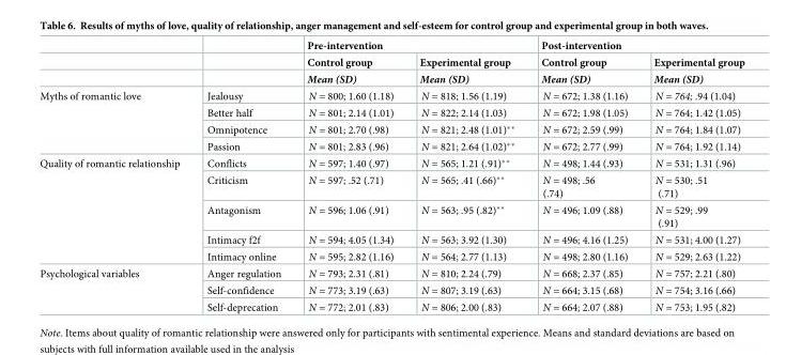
<table><thead><tr><td rowspan="3"></td><td rowspan="3"></td><td colspan="2">Pre-intervention</td><td colspan="2">Post-intervention</td></tr><tr><td rowspan="2">Control group Mean (SD)</td><td rowspan="2">Experimental group Mean (SD)</td><td rowspan="2">Control group Mean (SD)</td><td rowspan="2">Experimental group Mean (SD)</td></tr><tr></tr></thead><tbody><tr><td rowspan="4">Myths of romantic love</td><td>Jealousy</td><td>N = 800; 1.60 (1.18)</td><td>N = 818; 1.56 (1.19)</td><td>N = 672; 1.38 (1.16)</td><td>N = 764; .94 (1.04)</td></tr><tr><td>Better half</td><td>N = 801; 2.14 (1.01)</td><td>N = 822; 2.14 (1.03)</td><td>N = 672; 1.98 (1.05)</td><td>N = 764; 1.42 (1.05)</td></tr><tr><td>Omnipotence</td><td>N = 801; 2.70 (.98)</td><td>N = 821; 2.48 (1.01)**</td><td>N = 672; 2.59 (.99)</td><td>N = 764; 1.84 (1.07)</td></tr><tr><td>Passion</td><td>N = 801; 2.83 (.96)</td><td>N = 821; 2.64 (1.02)**</td><td>N = 672; 2.77 (.99)</td><td>N = 764; 1.92 (1.14)</td></tr><tr><td rowspan="5">Quality of romantic relationship</td><td>Conflicts</td><td>N = 597; 1.40 (.97)</td><td>N = 565; 1.21 (.91)**</td><td>N = 498; 1.44 (.93)</td><td>N = 531; 1.31 (.96)</td></tr><tr><td>Criticism</td><td>N = 597; .52 (.71)</td><td>N = 565; .41 (.66)**</td><td>N = 498; .56 (.74)</td><td>N = 530; .51 (.71)</td></tr><tr><td>Antagonism</td><td>N = 596; 1.06 (.91)</td><td>N = 563; .95 (.82)**</td><td>N = 496; 1.09 (.88)</td><td>N = 529; .99 (.91)</td></tr><tr><td>Intimacy f2f</td><td>N = 594; 4.05 (1.34)</td><td>N = 563; 3.92 (1.30)</td><td>N = 496; 4.16 (1.25)</td><td>N = 531; 4.00 (1.27)</td></tr><tr><td>Intimacy online</td><td>N = 595; 2.82 (1.16)</td><td>N = 564; 2.77 (1.13)</td><td>N = 498; 2.80 (1.16)</td><td>N = 529; 2.63 (1.22)</td></tr><tr><td rowspan="3">Psychological variables</td><td>Anger regulation</td><td>N = 793; 2.31 (.81)</td><td>N = 810; 2.24 (.79)</td><td>N = 668; 2.37 (.85)</td><td>N = 757; 2.21 (.80)</td></tr><tr><td>Self-confidence</td><td>N = 773; 3.19 (.63)</td><td>N = 807; 3.19 (.63)</td><td>N = 664; 3.15 (.68)</td><td>N = 754; 3.16 (.66)</td></tr><tr><td>Self-deprecation</td><td>N = 772; 2.01 (.83)</td><td>N = 806; 2.00 (.83)</td><td>N = 664; 2.07 (.88)</td><td>N = 753; 1.95 (.82)</td></tr></tbody></table>